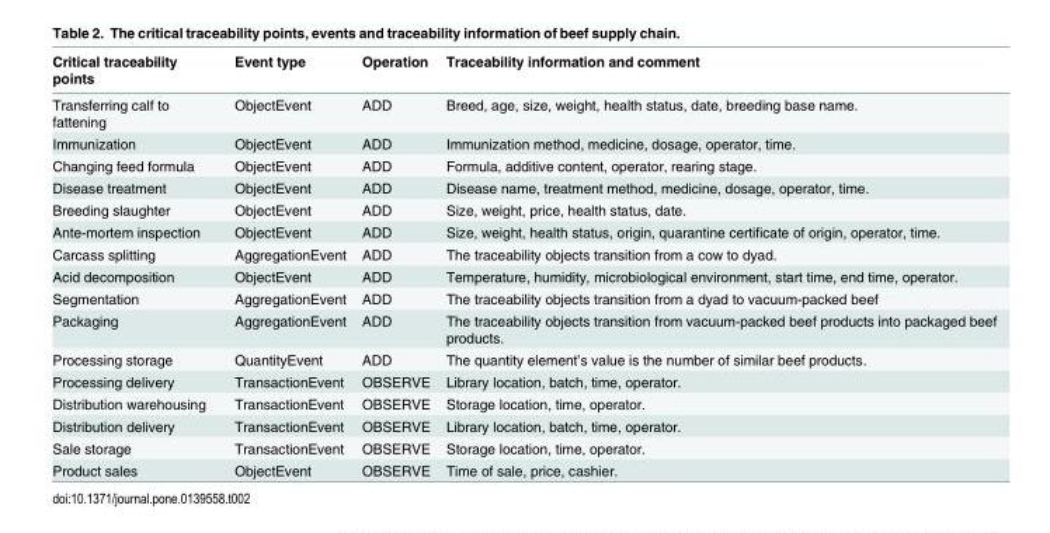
<table><thead><tr><td>Critical traceability points</td><td>Event type</td><td>Operation</td><td>Traceability information and comment</td></tr></thead><tbody><tr><td>Transferring calf to fattening</td><td>ObjectEvent</td><td>ADD</td><td>Breed, age, size, weight, health status, date, breeding base name.</td></tr><tr><td>Immunization</td><td>ObjectEvent</td><td>ADD</td><td>Immunization method, medicine, dosage, operator, time.</td></tr><tr><td>Changing feed formula</td><td>ObjectEvent</td><td>ADD</td><td>Formula, additive content, operator, rearing stage.</td></tr><tr><td>Disease treatment</td><td>ObjectEvent</td><td>ADD</td><td>Disease name, treatment method, medicine, dosage, operator, time.</td></tr><tr><td>Breeding slaughter</td><td>ObjectEvent</td><td>ADD</td><td>Size, weight, price, health status, date.</td></tr><tr><td>Ante-mortem inspection</td><td>ObjectEvent</td><td>ADD</td><td>Size, weight, health status, origin, quarantine certificate of origin, operator, time.</td></tr><tr><td>Carcass splitting</td><td>AggregationEvent</td><td>ADD</td><td>The traceability objects transition from a cow to dyad.</td></tr><tr><td>Acid decomposition</td><td>ObjectEvent</td><td>ADD</td><td>Temperature, humidity, microbiological environment, start time, end time, operator.</td></tr><tr><td>Segmentation</td><td>AggregationEvent</td><td>ADD</td><td>The traceability objects transition from a dyad to vacuum-packed beef</td></tr><tr><td>Packaging</td><td>AggregationEvent</td><td>ADD</td><td>The traceability objects transition from vacuum-packed beef products into packaged beef products.</td></tr><tr><td>Processing storage</td><td>QuantityEvent</td><td>ADD</td><td>The quantity element’s value is the number of similar beef products.</td></tr><tr><td>Processing delivery</td><td>TransactionEvent</td><td>OBSERVE</td><td>Library location, batch, time, operator.</td></tr><tr><td>Distribution warehousing</td><td>TransactionEvent</td><td>OBSERVE</td><td>Storage location, time, operator.</td></tr><tr><td>Distribution delivery</td><td>TransactionEvent</td><td>OBSERVE</td><td>Library location, batch, time, operator.</td></tr><tr><td>Sale storage</td><td>TransactionEvent</td><td>OBSERVE</td><td>Storage location, time, operator.</td></tr><tr><td>Product sales</td><td>ObjectEvent</td><td>OBSERVE</td><td>Time of sale, price, cashier.</td></tr></tbody></table>